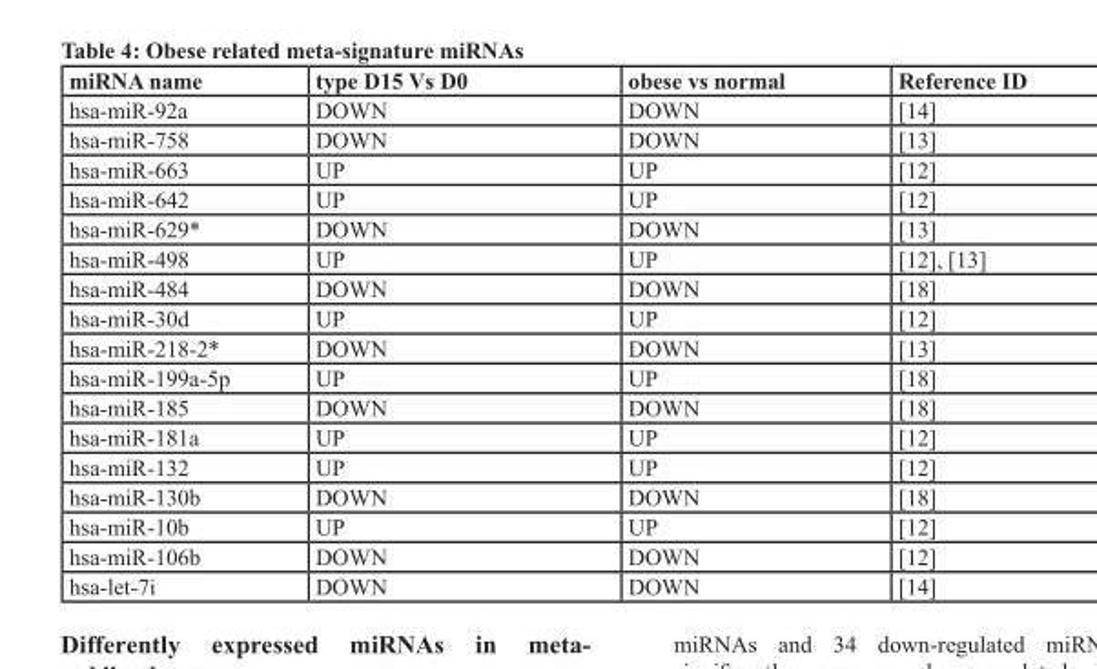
<table><thead><tr><td>miRNA name</td><td>type D15 Vs D0</td><td>obese vs normal</td><td>Reference ID</td></tr></thead><tbody><tr><td>hsa-miR-92a</td><td>DOWN</td><td>DOWN</td><td>[14]</td></tr><tr><td>hsa-miR-758</td><td>DOWN</td><td>DOWN</td><td>[13]</td></tr><tr><td>hsa-miR-663</td><td>UP</td><td>UP</td><td>[12]</td></tr><tr><td>hsa-miR-642</td><td>UP</td><td>UP</td><td>[12]</td></tr><tr><td>hsa-miR-629*</td><td>DOWN</td><td>DOWN</td><td>[13]</td></tr><tr><td>hsa-miR-498</td><td>UP</td><td>UP</td><td>[12], [13]</td></tr><tr><td>hsa-miR-484</td><td>DOWN</td><td>DOWN</td><td>[18]</td></tr><tr><td>hsa-miR-30d</td><td>UP</td><td>UP</td><td>[12]</td></tr><tr><td>hsa-miR-218-2*</td><td>DOWN</td><td>DOWN</td><td>[13]</td></tr><tr><td>hsa-miR-199a-5p</td><td>UP</td><td>UP</td><td>[18]</td></tr><tr><td>hsa-miR-185</td><td>DOWN</td><td>DOWN</td><td>[18]</td></tr><tr><td>hsa-miR-181a</td><td>UP</td><td>UP</td><td>[12]</td></tr><tr><td>hsa-miR-132</td><td>UP</td><td>UP</td><td>[12]</td></tr><tr><td>hsa-miR-130b</td><td>DOWN</td><td>DOWN</td><td>[18]</td></tr><tr><td>hsa-miR-10b</td><td>UP</td><td>UP</td><td>[12]</td></tr><tr><td>hsa-miR-106b</td><td>DOWN</td><td>DOWN</td><td>[12]</td></tr><tr><td>hsa-let-7i</td><td>DOWN</td><td>DOWN</td><td>[14]</td></tr></tbody></table>